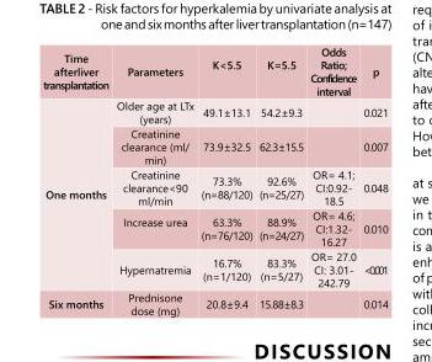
<table><tbody><tr><td>Time afterliver transplantation</td><td>Parameters</td><td>K&lt;5.5</td><td>K=5.5</td><td>Odds Ratio; Confidence interval</td><td>p</td></tr><tr><td rowspan="5">One months</td><td>Older age at LTx (years)</td><td>49.1±13.1</td><td>54.2±9.3</td><td></td><td>0.021</td></tr><tr><td>Creatinine clearance (ml/ min)</td><td>73.9±32.5</td><td>62.3±15.5</td><td></td><td>0.007</td></tr><tr><td>Creatinine clearance&lt;90 ml/min</td><td>73.3% (n=88/120)</td><td>92.6% (n=25/27)</td><td>OR= 4.1; CI:0.92- 18.5</td><td>0.048</td></tr><tr><td>Increase urea</td><td>63.3% (n=76/120)</td><td>88.9% (n=24/27)</td><td>OR= 4.6; CI:1.32- 16.27</td><td>0.010</td></tr><tr><td>Hypernatremia</td><td>16.7% (n=1/120)</td><td>83.3% (n=5/27)</td><td>OR= 27.0 CI: 3.01- 242.79</td><td>&lt;0.001</td></tr><tr><td>Six months</td><td>Prednisone dose (mg)</td><td>20.8±9.4</td><td>15.88±8.3</td><td></td><td>0.014</td></tr></tbody></table>